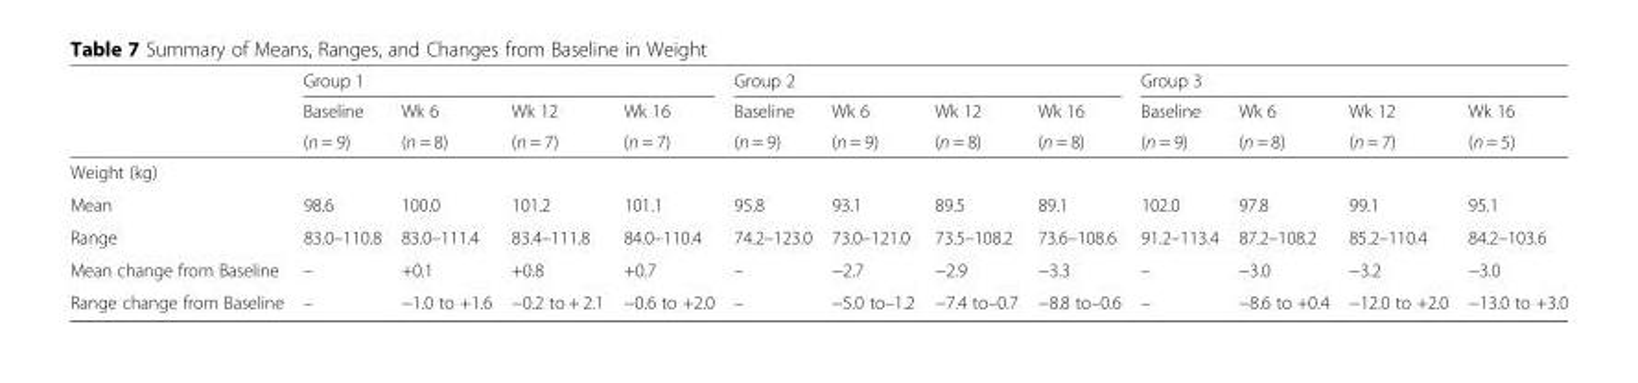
<table><thead><tr><td rowspan="3"></td><td colspan="4">Group 1</td><td colspan="4">Group 2</td><td colspan="4">Group 3</td></tr><tr><td rowspan="2">Baseline (n = 9)</td><td rowspan="2">Wk 6 (n = 8)</td><td rowspan="2">Wk 12 (n = 7)</td><td rowspan="2">Wk 16 (n = 7)</td><td rowspan="2">Baseline (n = 9)</td><td rowspan="2">Wk 6 (n = 9)</td><td rowspan="2">Wk 12 (n = 8)</td><td rowspan="2">Wk 16 (n = 8)</td><td rowspan="2">Baseline (n = 9)</td><td rowspan="2">Wk 6 (n = 8)</td><td rowspan="2">Wk 12 (n = 7)</td><td rowspan="2">Wk 16 (n = 5)</td></tr><tr></tr></thead><tbody><tr><td colspan="13">Weight (kg)</td></tr><tr><td>Mean</td><td>98.6</td><td>100.0</td><td>101.2</td><td>101.1</td><td>95.8</td><td>93.1</td><td>89.5</td><td>89.1</td><td>102.0</td><td>97.8</td><td>99.1</td><td>95.1</td></tr><tr><td>Range</td><td>83.0–110.8</td><td>83.0–111.4</td><td>83.4–111.8</td><td>84.0–110.4</td><td>74.2–123.0</td><td>73.0–121.0</td><td>73.5–108.2</td><td>73.6–108.6</td><td>91.2–113.4</td><td>87.2–108.2</td><td>85.2–110.4</td><td>84.2–103.6</td></tr><tr><td>Mean change from Baseline</td><td>–</td><td>+0.1</td><td>+0.8</td><td>+0.7</td><td>–</td><td>−2.7</td><td>−2.9</td><td>−3.3</td><td>–</td><td>−3.0</td><td>−3.2</td><td>−3.0</td></tr><tr><td>Range change from Baseline</td><td>–</td><td>−1.0 to +1.6</td><td>−0.2 to + 2.1</td><td>−0.6 to +2.0</td><td>–</td><td>−5.0 to–1.2</td><td>−7.4 to–0.7</td><td>−8.8 to–0.6</td><td>–</td><td>−8.6 to +0.4</td><td>−12.0 to +2.0</td><td>−13.0 to +3.0</td></tr></tbody></table>